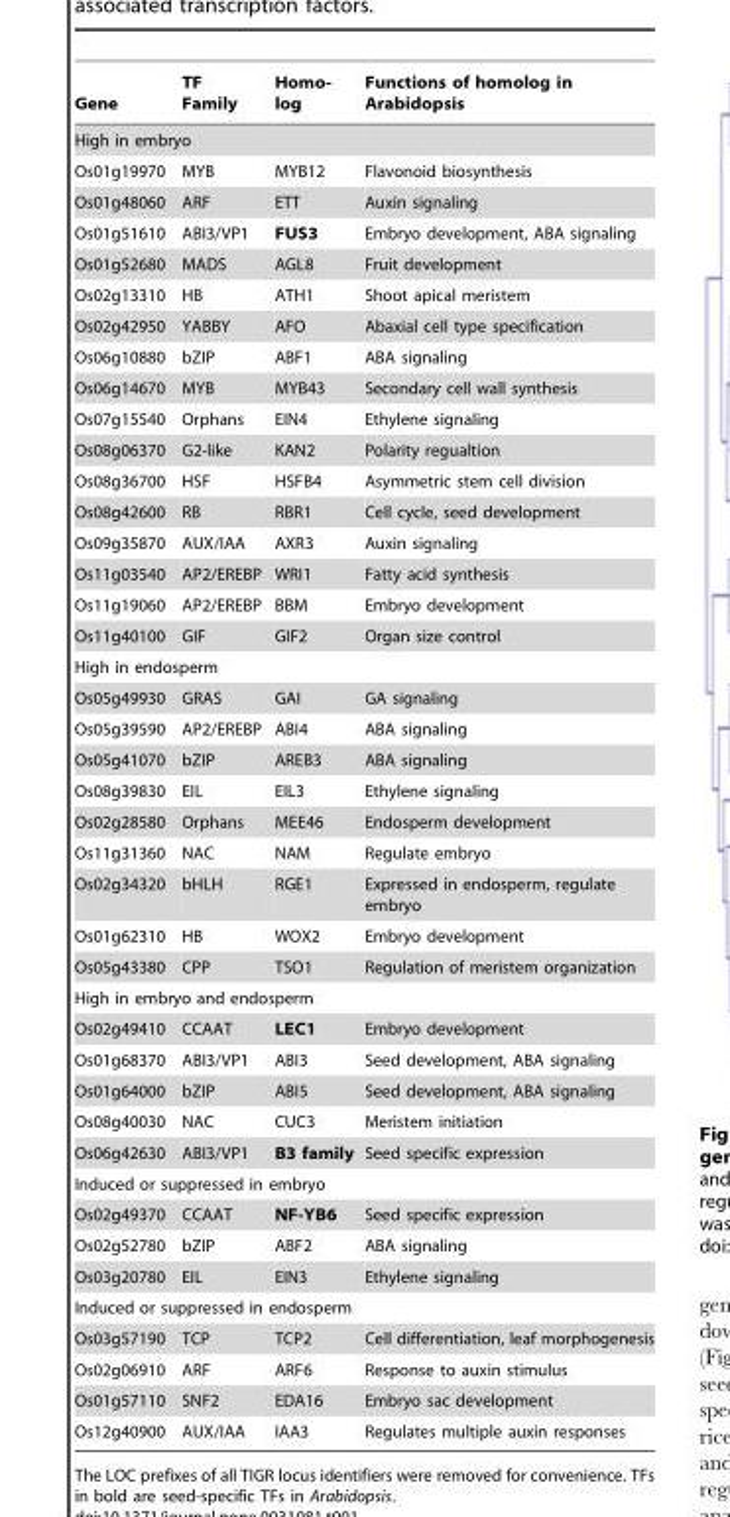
<table><thead><tr><td>Gene</td><td>TF Family</td><td>Homo- log</td><td>Functions of homolog in Arabidopsis</td></tr></thead><tbody><tr><td colspan="4">High in embryo</td></tr><tr><td>Os01g19970</td><td>MYB</td><td>MYB12</td><td>Flavonoid biosynthesis</td></tr><tr><td>Os01g48060</td><td>ARF</td><td>ETT</td><td>Auxin signaling</td></tr><tr><td>Os01g51610</td><td>ABI3/VP1</td><td>FUS3</td><td>Embryo development, ABA signaling</td></tr><tr><td>Os01g52680</td><td>MADS</td><td>AGL8</td><td>Fruit development</td></tr><tr><td>Os02g13310</td><td>HB</td><td>ATH1</td><td>Shoot apical meristem</td></tr><tr><td>Os02g42950</td><td>YABBY</td><td>AFO</td><td>Abaxial cell type specification</td></tr><tr><td>Os06g10880</td><td>bZIP</td><td>ABF1</td><td>ABA signaling</td></tr><tr><td>Os06g14670</td><td>MYB</td><td>MYB43</td><td>Secondary cell wall synthesis</td></tr><tr><td>Os07g15540</td><td>Orphans</td><td>EIN4</td><td>Ethylene signaling</td></tr><tr><td>Os08g06370</td><td>G2-like</td><td>KAN2</td><td>Polarity regualtion</td></tr><tr><td>Os08g36700</td><td>HSF</td><td>HSFB4</td><td>Asymmetric stem cell division</td></tr><tr><td>Os08g42600</td><td>RB</td><td>RBR1</td><td>Cell cycle, seed development</td></tr><tr><td>Os09g35870</td><td>AUX/IAA</td><td>AXR3</td><td>Auxin signaling</td></tr><tr><td>Os11g03540</td><td>AP2/EREBP</td><td>WRI1</td><td>Fatty acid synthesis</td></tr><tr><td>Os11g19060</td><td>AP2/EREBP</td><td>BBM</td><td>Embryo development</td></tr><tr><td>Os11g40100</td><td>GIF</td><td>GIF2</td><td>Organ size control</td></tr><tr><td colspan="4">High in endosperm</td></tr><tr><td>Os05g49930</td><td>GRAS</td><td>GAI</td><td>GA signaling</td></tr><tr><td>Os05g39590</td><td>AP2/EREBP</td><td>ABI4</td><td>ABA signaling</td></tr><tr><td>Os05g41070</td><td>bZIP</td><td>AREB3</td><td>ABA signaling</td></tr><tr><td>Os08g39830</td><td>EIL</td><td>EIL3</td><td>Ethylene signaling</td></tr><tr><td>Os02g28580</td><td>Orphans</td><td>MEE46</td><td>Endosperm development</td></tr><tr><td>Os11g31360</td><td>NAC</td><td>NAM</td><td>Regulate embryo</td></tr><tr><td>Os02g34320</td><td>bHLH</td><td>RGE1</td><td>Expressed in endosperm, regulate embryo</td></tr><tr><td>Os01g62310</td><td>HB</td><td>WOX2</td><td>Embryo development</td></tr><tr><td>Os05g43380</td><td>CPP</td><td>TSO1</td><td>Regulation of meristem organization</td></tr><tr><td colspan="4">High in embryo and endosperm</td></tr><tr><td>Os02g49410</td><td>CCAAT</td><td>LEC1</td><td>Embryo development</td></tr><tr><td>Os01g68370</td><td>ABI3/VP1</td><td>ABI3</td><td>Seed development, ABA signaling</td></tr><tr><td>Os01g64000</td><td>bZIP</td><td>ABI5</td><td>Seed development, ABA signaling</td></tr><tr><td>Os08g40030</td><td>NAC</td><td>CUC3</td><td>Meristem initiation</td></tr><tr><td>Os06g42630</td><td>ABI3/VP1</td><td>B3 family</td><td>Seed specific expression</td></tr><tr><td colspan="4">Induced or suppressed in embryo</td></tr><tr><td>Os02g49370</td><td>CCAAT</td><td>NF-YB6</td><td>Seed specific expression</td></tr><tr><td>Os02g52780</td><td>bZIP</td><td>ABF2</td><td>ABA signaling</td></tr><tr><td>Os03g20780</td><td>EIL</td><td>EIN3</td><td>Ethylene signaling</td></tr><tr><td colspan="4">Induced or suppressed in endosperm</td></tr><tr><td>Os03g57190</td><td>TCP</td><td>TCP2</td><td>Cell differentiation, leaf morphogenesis</td></tr><tr><td>Os02g06910</td><td>ARF</td><td>ARF6</td><td>Response to auxin stimulus</td></tr><tr><td>Os01g57110</td><td>SNF2</td><td>EDA16</td><td>Embryo sac development</td></tr><tr><td>Os12g40900</td><td>AUX/IAA</td><td>IAA3</td><td>Regulates multiple auxin responses</td></tr></tbody></table>